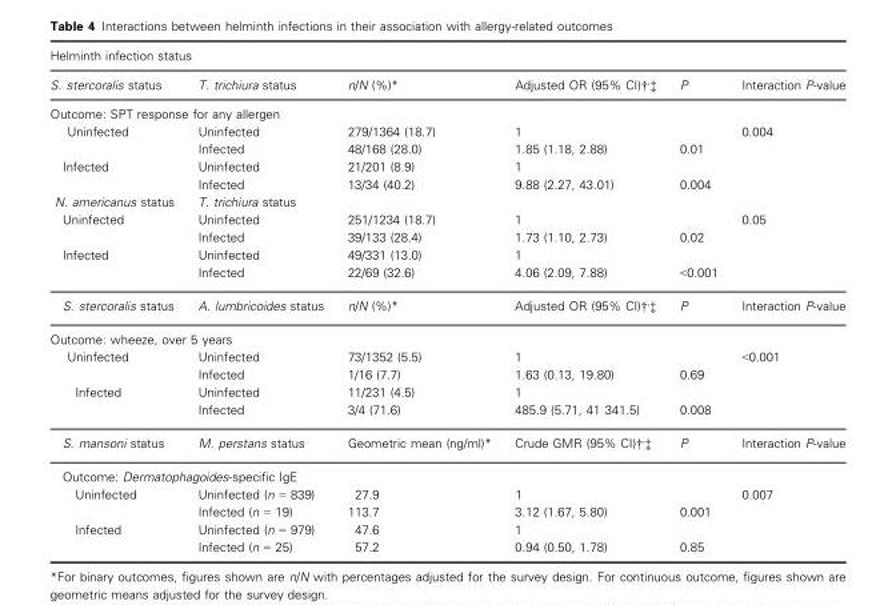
<table><thead><tr><td colspan="6">Helminth infection status</td></tr><tr><td>S. stercoralis status</td><td>T. trichiura status</td><td>n/N (%)*</td><td>Adjusted OR (95% CI)†,‡</td><td>P</td><td>Interaction P-value</td></tr></thead><tbody><tr><td colspan="6">Outcome: SPT response for any allergen</td></tr><tr><td rowspan="2">Uninfected</td><td>Uninfected</td><td>279/1364 (18.7)</td><td>1</td><td></td><td>0.004</td></tr><tr><td>Infected</td><td>48/168 (28.0)</td><td>1.85 (1.18, 2.88)</td><td>0.01</td><td></td></tr><tr><td rowspan="2">Infected</td><td>Uninfected</td><td>21/201 (8.9)</td><td>1</td><td></td><td></td></tr><tr><td>Infected</td><td>13/34 (40.2)</td><td>9.88 (2.27, 43.01)</td><td>0.004</td><td></td></tr><tr><td>N. americanus status</td><td>T. trichiura status</td><td></td><td></td><td></td><td></td></tr><tr><td rowspan="2">Uninfected</td><td>Uninfected</td><td>251/1234 (18.7)</td><td>1</td><td></td><td>0.05</td></tr><tr><td>Infected</td><td>39/133 (28.4)</td><td>1.73 (1.10, 2.73)</td><td>0.02</td><td></td></tr><tr><td rowspan="2">Infected</td><td>Uninfected</td><td>49/331 (13.0)</td><td>1</td><td></td><td></td></tr><tr><td>Infected</td><td>22/69 (32.6)</td><td>4.06 (2.09, 7.88)</td><td>&lt;0.001</td><td></td></tr><tr><td>S. stercoralis status</td><td>A. lumbricoides status</td><td>n/N (%)*</td><td>Adjusted OR (95% CI)†,‡</td><td>P</td><td>Interaction P-value</td></tr><tr><td colspan="6">Outcome: wheeze, over 5 years</td></tr><tr><td rowspan="2">Uninfected</td><td>Uninfected</td><td>73/1352 (5.5)</td><td>1</td><td></td><td>&lt;0.001</td></tr><tr><td>Infected</td><td>1/16 (7.7)</td><td>1.63 (0.13, 19.80)</td><td>0.69</td><td></td></tr><tr><td rowspan="2">Infected</td><td>Uninfected</td><td>11/231 (4.5)</td><td>1</td><td></td><td></td></tr><tr><td>Infected</td><td>3/4 (71.6)</td><td>485.9 (5.71, 41 341.5)</td><td>0.008</td><td></td></tr><tr><td>S. mansoni status</td><td>M. perstans status</td><td>Geometric mean (ng/ml)*</td><td>Crude GMR (95% CI)†,‡</td><td>P</td><td>Interaction P-value</td></tr><tr><td colspan="6">Outcome: Dermatophagoides-specific IgE</td></tr><tr><td rowspan="2">Uninfected</td><td>Uninfected (n = 839)</td><td>27.9</td><td>1</td><td></td><td>0.007</td></tr><tr><td>Infected (n = 19)</td><td>113.7</td><td>3.12 (1.67, 5.80)</td><td>0.001</td><td></td></tr><tr><td rowspan="2">Infected</td><td>Uninfected (n = 979)</td><td>47.6</td><td>1</td><td></td><td></td></tr><tr><td>Infected (n = 25)</td><td>57.2</td><td>0.94 (0.50, 1.78)</td><td>0.85</td><td></td></tr></tbody></table>